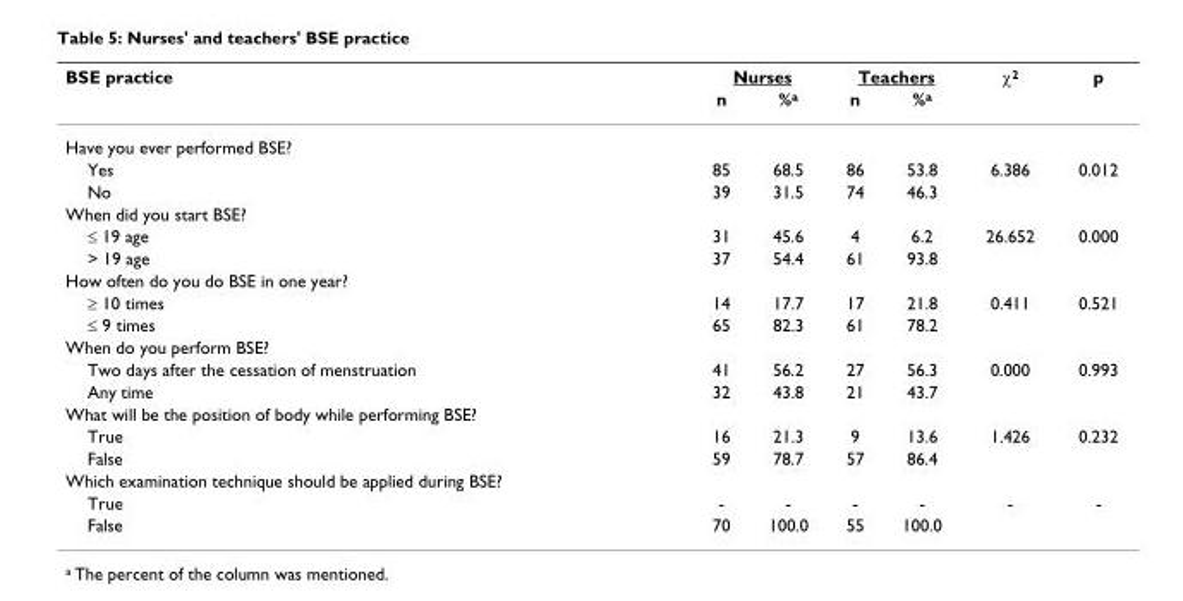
<table><thead><tr><td rowspan="2">BSE practice</td><td colspan="2">Nurses</td><td colspan="2">Teachers</td><td rowspan="2">χ<sup>2</sup></td><td rowspan="2">p</td></tr><tr><td>n</td><td>%<sup>a</sup></td><td>n</td><td>%<sup>a</sup></td></tr></thead><tbody><tr><td colspan="7">Have you ever performed BSE?</td></tr><tr><td>Yes</td><td>85</td><td>68.5</td><td>86</td><td>53.8</td><td>6.386</td><td>0.012</td></tr><tr><td>No</td><td>39</td><td>31.5</td><td>74</td><td>46.3</td><td></td><td></td></tr><tr><td colspan="7">When did you start BSE?</td></tr><tr><td>≤ 19 age</td><td>31</td><td>45.6</td><td>4</td><td>6.2</td><td>26.652</td><td>0.000</td></tr><tr><td>&gt; 19 age</td><td>37</td><td>54.4</td><td>61</td><td>93.8</td><td></td><td></td></tr><tr><td colspan="7">How often do you do BSE in one year?</td></tr><tr><td>≥ 10 times</td><td>14</td><td>17.7</td><td>17</td><td>21.8</td><td>0.411</td><td>0.521</td></tr><tr><td>≤ 9 times</td><td>65</td><td>82.3</td><td>61</td><td>78.2</td><td></td><td></td></tr><tr><td colspan="7">When do you perform BSE?</td></tr><tr><td>Two days after the cessation of menstruation</td><td>41</td><td>56.2</td><td>27</td><td>56.3</td><td>0.000</td><td>0.993</td></tr><tr><td>Any time</td><td>32</td><td>43.8</td><td>21</td><td>43.7</td><td></td><td></td></tr><tr><td colspan="7">What will be the position of body while performing BSE?</td></tr><tr><td>True</td><td>16</td><td>21.3</td><td>9</td><td>13.6</td><td>1.426</td><td>0.232</td></tr><tr><td>False</td><td>59</td><td>78.7</td><td>57</td><td>86.4</td><td></td><td></td></tr><tr><td colspan="7">Which examination technique should be applied during BSE?</td></tr><tr><td>True</td><td>-</td><td>-</td><td>-</td><td>-</td><td>-</td><td>-</td></tr><tr><td>False</td><td>70</td><td>100.0</td><td>55</td><td>100.0</td><td></td><td></td></tr></tbody></table>